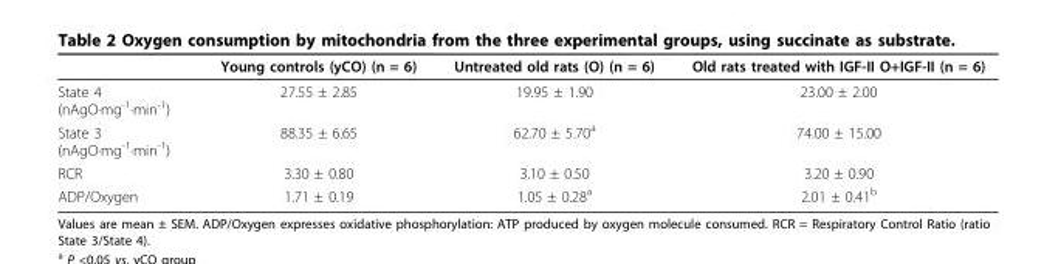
<table><thead><tr><td></td><td>Young controls (yCO) (n = 6)</td><td>Untreated old rats (O) (n = 6)</td><td>Old rats treated with IGF-II O+IGF-II (n = 6)</td></tr></thead><tbody><tr><td>State 4 (nAgO·mg<sup>-1</sup>·min<sup>-1</sup>)</td><td>27.55 ± 2.85</td><td>19.95 ± 1.90</td><td>23.00 ± 2.00</td></tr><tr><td>State 3 (nAgO·mg<sup>-1</sup>·min<sup>-1</sup>)</td><td>88.35 ± 6.65</td><td>62.70 ± 5.70<sup>a</sup></td><td>74.00 ± 15.00</td></tr><tr><td>RCR</td><td>3.30 ± 0.80</td><td>3.10 ± 0.50</td><td>3.20 ± 0.90</td></tr><tr><td>ADP/Oxygen</td><td>1.71 ± 0.19</td><td>1.05 ± 0.28<sup>a</sup></td><td>2.01 ± 0.41<sup>b</sup></td></tr></tbody></table>